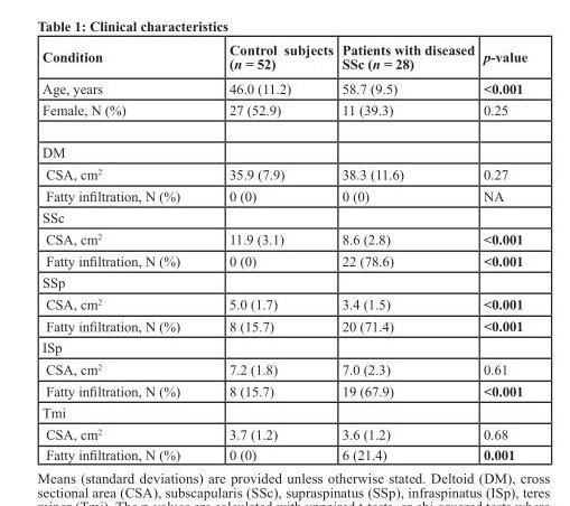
<table><thead><tr><td>Condition</td><td>Control subjects (n = 52)</td><td>Patients with diseased SSc (n = 28)</td><td>p-value</td></tr></thead><tbody><tr><td>Age, years</td><td>46.0 (11.2)</td><td>58.7 (9.5)</td><td>&lt;0.001</td></tr><tr><td>Female, N (%)</td><td>27 (52.9)</td><td>11 (39.3)</td><td>0.25</td></tr><tr><td colspan="4">DM</td></tr><tr><td>CSA, cm<sup>2</sup></td><td>35.9 (7.9)</td><td>38.3 (11.6)</td><td>0.27</td></tr><tr><td>Fatty infiltration, N (%)</td><td>0 (0)</td><td>0 (0)</td><td>NA</td></tr><tr><td colspan="4">SSc</td></tr><tr><td>CSA, cm<sup>2</sup></td><td>11.9 (3.1)</td><td>8.6 (2.8)</td><td>&lt;0.001</td></tr><tr><td>Fatty infiltration, N (%)</td><td>0 (0)</td><td>22 (78.6)</td><td>&lt;0.001</td></tr><tr><td colspan="4">SSp</td></tr><tr><td>CSA, cm<sup>2</sup></td><td>5.0 (1.7)</td><td>3.4 (1.5)</td><td>&lt;0.001</td></tr><tr><td>Fatty infiltration, N (%)</td><td>8 (15.7)</td><td>20 (71.4)</td><td>&lt;0.001</td></tr><tr><td colspan="4">ISp</td></tr><tr><td>CSA, cm<sup>2</sup></td><td>7.2 (1.8)</td><td>7.0 (2.3)</td><td>0.61</td></tr><tr><td>Fatty infiltration, N (%)</td><td>8 (15.7)</td><td>19 (67.9)</td><td>&lt;0.001</td></tr><tr><td colspan="4">Tmi</td></tr><tr><td>CSA, cm<sup>2</sup></td><td>3.7 (1.2)</td><td>3.6 (1.2)</td><td>0.68</td></tr><tr><td>Fatty infiltration, N (%)</td><td>0 (0)</td><td>6 (21.4)</td><td>0.001</td></tr></tbody></table>